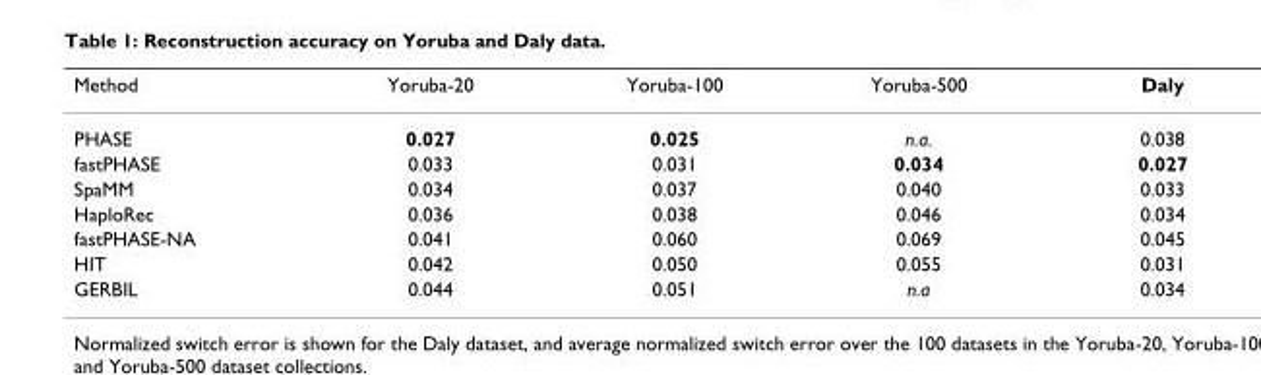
<table><thead><tr><td>Method</td><td>Yoruba-20</td><td>Yoruba-100</td><td>Yoruba-500</td><td>Daly</td></tr></thead><tbody><tr><td>PHASE</td><td>0.027</td><td>0.025</td><td>n.a.</td><td>0.038</td></tr><tr><td>fastPHASE</td><td>0.033</td><td>0.031</td><td>0.034</td><td>0.027</td></tr><tr><td>SpaMM</td><td>0.034</td><td>0.037</td><td>0.040</td><td>0.033</td></tr><tr><td>HaploRec</td><td>0.036</td><td>0.038</td><td>0.046</td><td>0.034</td></tr><tr><td>fastPHASE-NA</td><td>0.041</td><td>0.060</td><td>0.069</td><td>0.045</td></tr><tr><td>HIT</td><td>0.042</td><td>0.050</td><td>0.055</td><td>0.031</td></tr><tr><td>GERBIL</td><td>0.044</td><td>0.051</td><td>n.a</td><td>0.034</td></tr></tbody></table>